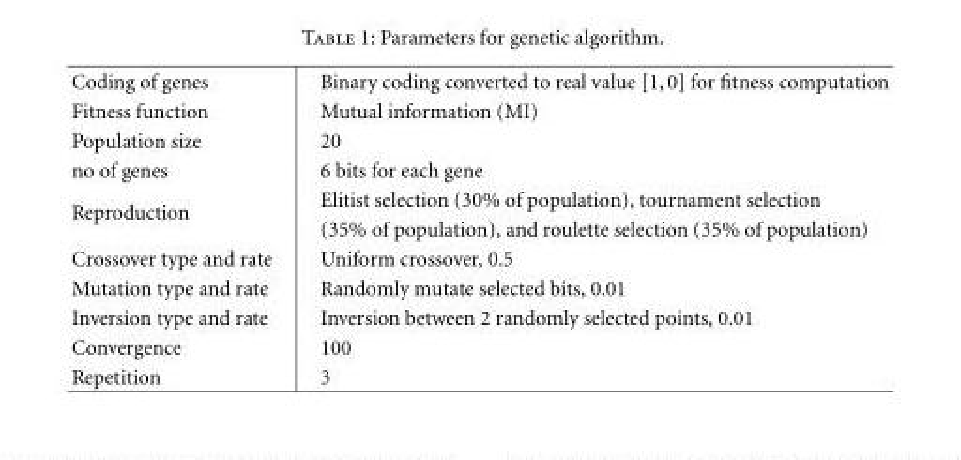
<table><tbody><tr><td>Coding of genes</td><td>Binary coding converted to real value [1,0] for fitness computation</td></tr><tr><td>Fitness function</td><td>Mutual information (MI)</td></tr><tr><td>Population size</td><td>20</td></tr><tr><td>no of genes</td><td>6 bits for each gene</td></tr><tr><td rowspan="2">Reproduction</td><td>Elitist selection (30% of population), tournament selection</td></tr><tr><td>(35% of population), and roulette selection (35% of population)</td></tr><tr><td>Crossover type and rate</td><td>Uniform crossover, 0.5</td></tr><tr><td>Mutation type and rate</td><td>Randomly mutate selected bits, 0.01</td></tr><tr><td>Inversion type and rate</td><td>Inversion between 2 randomly selected points, 0.01</td></tr><tr><td>Convergence</td><td>100</td></tr><tr><td>Repetition</td><td>3</td></tr></tbody></table>